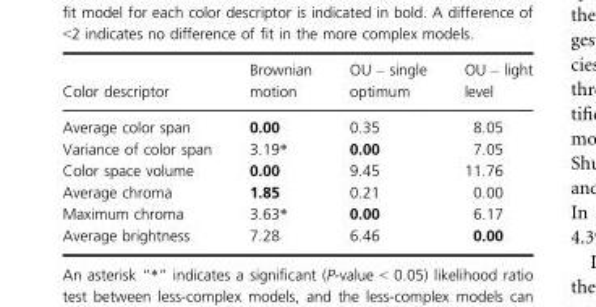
<table><thead><tr><td>Color descriptor</td><td>Brownian motion</td><td>OU – single optimum</td><td>OU – light level</td></tr></thead><tbody><tr><td>Average color span</td><td>0.00</td><td>0.35</td><td>8.05</td></tr><tr><td>Variance of color span</td><td>3.19*</td><td>0.00</td><td>7.05</td></tr><tr><td>Color space volume</td><td>0.00</td><td>9.45</td><td>11.76</td></tr><tr><td>Average chroma</td><td>1.85</td><td>0.21</td><td>0.00</td></tr><tr><td>Maximum chroma</td><td>3.63*</td><td>0.00</td><td>6.17</td></tr><tr><td>Average brightness</td><td>7.28</td><td>6.46</td><td>0.00</td></tr></tbody></table>